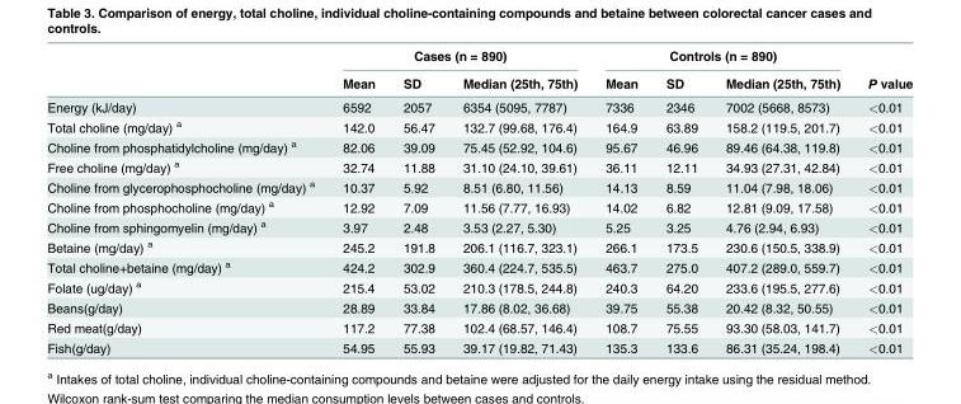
<table><thead><tr><td rowspan="2"></td><td colspan="3">Cases (n = 890)</td><td colspan="3">Controls (n = 890)</td><td rowspan="2">P value</td></tr><tr><td>Mean</td><td>SD</td><td>Median (25th, 75th)</td><td>Mean</td><td>SD</td><td>Median (25th, 75th)</td></tr></thead><tbody><tr><td>Energy (kJ/day)</td><td>6592</td><td>2057</td><td>6354 (5095, 7787)</td><td>7336</td><td>2346</td><td>7002 (5668, 8573)</td><td>&lt;0.01</td></tr><tr><td>Total choline (mg/day) <sup>a</sup></td><td>142.0</td><td>56.47</td><td>132.7 (99.68, 176.4)</td><td>164.9</td><td>63.89</td><td>158.2 (119.5, 201.7)</td><td>&lt;0.01</td></tr><tr><td>Choline from phosphatidylcholine (mg/day) <sup>a</sup></td><td>82.06</td><td>39.09</td><td>75.45 (52.92, 104.6)</td><td>95.67</td><td>46.96</td><td>89.46 (64.38, 119.8)</td><td>&lt;0.01</td></tr><tr><td>Free choline (mg/day) <sup>a</sup></td><td>32.74</td><td>11.88</td><td>31.10 (24.10, 39.61)</td><td>36.11</td><td>12.11</td><td>34.93 (27.31, 42.84)</td><td>&lt;0.01</td></tr><tr><td>Choline from glycerophosphocholine (mg/day) <sup>a</sup></td><td>10.37</td><td>5.92</td><td>8.51 (6.80, 11.56)</td><td>14.13</td><td>8.59</td><td>11.04 (7.98, 18.06)</td><td>&lt;0.01</td></tr><tr><td>Choline from phosphocholine (mg/day) <sup>a</sup></td><td>12.92</td><td>7.09</td><td>11.56 (7.77, 16.93)</td><td>14.02</td><td>6.82</td><td>12.81 (9.09, 17.58)</td><td>&lt;0.01</td></tr><tr><td>Choline from sphingomyelin (mg/day) <sup>a</sup></td><td>3.97</td><td>2.48</td><td>3.53 (2.27, 5.30)</td><td>5.25</td><td>3.25</td><td>4.76 (2.94, 6.93)</td><td>&lt;0.01</td></tr><tr><td>Betaine (mg/day) <sup>a</sup></td><td>245.2</td><td>191.8</td><td>206.1 (116.7, 323.1)</td><td>266.1</td><td>173.5</td><td>230.6 (150.5, 338.9)</td><td>&lt;0.01</td></tr><tr><td>Total choline+betaine (mg/day) <sup>a</sup></td><td>424.2</td><td>302.9</td><td>360.4 (224.7, 535.5)</td><td>463.7</td><td>275.0</td><td>407.2 (289.0, 559.7)</td><td>&lt;0.01</td></tr><tr><td>Folate (ug/day) <sup>a</sup></td><td>215.4</td><td>53.02</td><td>210.3 (178.5, 244.8)</td><td>240.3</td><td>64.20</td><td>233.6 (195.5, 277.6)</td><td>&lt;0.01</td></tr><tr><td>Beans(g/day)</td><td>28.89</td><td>33.84</td><td>17.86 (8.02, 36.68)</td><td>39.75</td><td>55.38</td><td>20.42 (8.32, 50.55)</td><td>&lt;0.01</td></tr><tr><td>Red meat(g/day)</td><td>117.2</td><td>77.38</td><td>102.4 (68.57, 146.4)</td><td>108.7</td><td>75.55</td><td>93.30 (58.03, 141.7)</td><td>&lt;0.01</td></tr><tr><td>Fish(g/day)</td><td>54.95</td><td>55.93</td><td>39.17 (19.82, 71.43)</td><td>135.3</td><td>133.6</td><td>86.31 (35.24, 198.4)</td><td>&lt;0.01</td></tr></tbody></table>